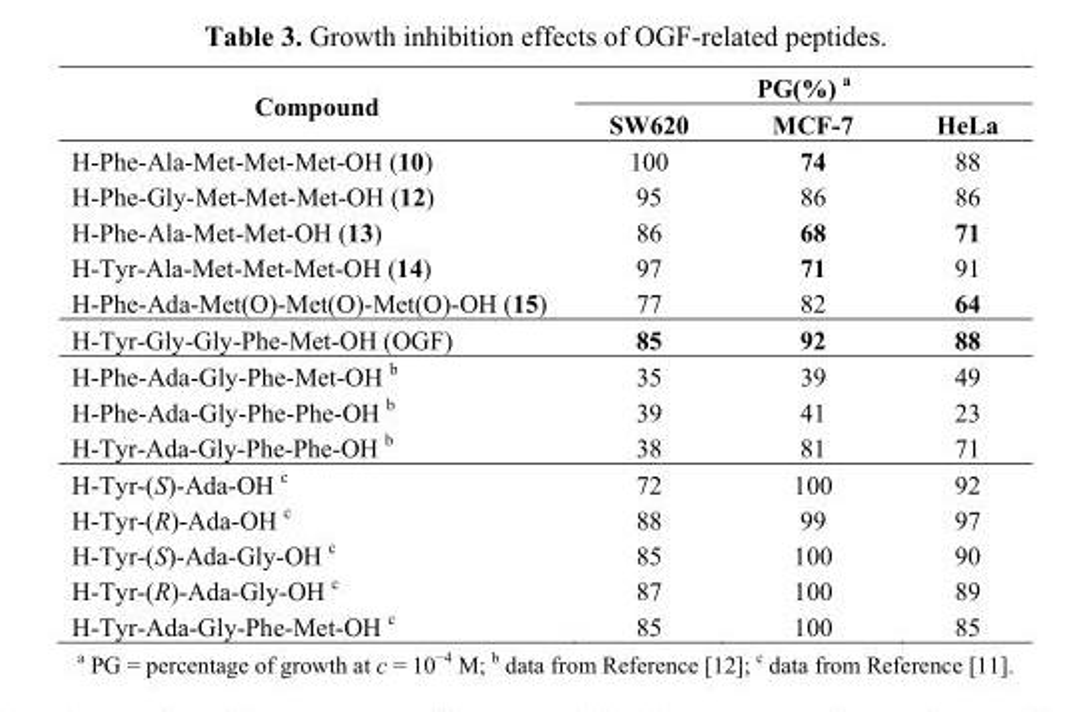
<table><thead><tr><td rowspan="2">Compound</td><td colspan="3">PG(%) a</td></tr><tr><td>SW620</td><td>MCF-7</td><td>HeLa</td></tr></thead><tbody><tr><td>H-Phe-Ala-Met-Met-Met-OH (10)</td><td>100</td><td>74</td><td>88</td></tr><tr><td>H-Phe-Gly-Met-Met-Met-OH (12)</td><td>95</td><td>86</td><td>86</td></tr><tr><td>H-Phe-Ala-Met-Met-OH (13)</td><td>86</td><td>68</td><td>71</td></tr><tr><td>H-Tyr-Ala-Met-Met-Met-OH (14)</td><td>97</td><td>71</td><td>91</td></tr><tr><td>H-Phe-Ada-Met(O)-Met(O)-Met(O)-OH (15)</td><td>77</td><td>82</td><td>64</td></tr><tr><td>H-Tyr-Gly-Gly-Phe-Met-OH (OGF)</td><td>85</td><td>92</td><td>88</td></tr><tr><td>H-Phe-Ada-Gly-Phe-Met-OH b</td><td>35</td><td>39</td><td>49</td></tr><tr><td>H-Phe-Ada-Gly-Phe-Phe-OH b</td><td>39</td><td>41</td><td>23</td></tr><tr><td>H-Tyr-Ada-Gly-Phe-Phe-OH b</td><td>38</td><td>81</td><td>71</td></tr><tr><td>H-Tyr-(S)-Ada-OH c</td><td>72</td><td>100</td><td>92</td></tr><tr><td>H-Tyr-(R)-Ada-OH c</td><td>88</td><td>99</td><td>97</td></tr><tr><td>H-Tyr-(S)-Ada-Gly-OH c</td><td>85</td><td>100</td><td>90</td></tr><tr><td>H-Tyr-(R)-Ada-Gly-OH c</td><td>87</td><td>100</td><td>89</td></tr><tr><td>H-Tyr-Ada-Gly-Phe-Met-OH c</td><td>85</td><td>100</td><td>85</td></tr></tbody></table>